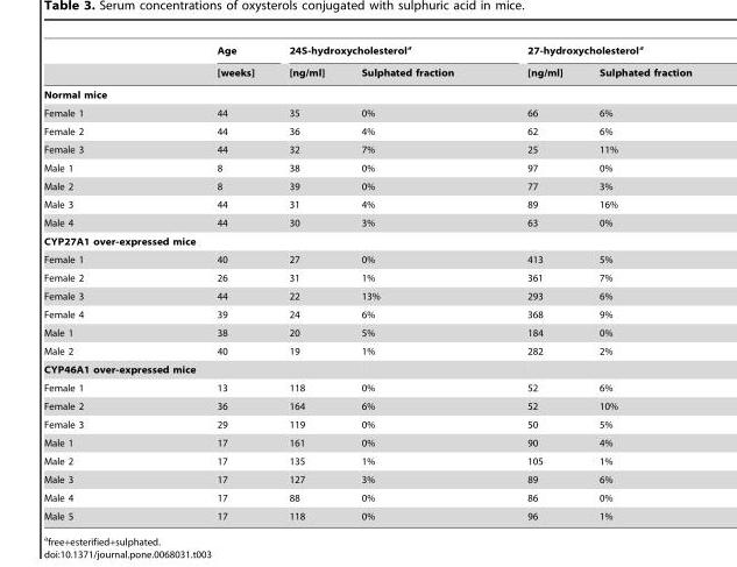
<table><thead><tr><td rowspan="2"></td><td rowspan="2">Age [weeks]</td><td colspan="2">24S-hydroxycholesterol<sup>a</sup></td><td colspan="2">27-hydroxycholesterol<sup>a</sup></td></tr><tr><td>[ng/ml]</td><td>Sulphated fraction</td><td>[ng/ml]</td><td>Sulphated fraction</td></tr></thead><tbody><tr><td colspan="6">Normal mice</td></tr><tr><td>Female 1</td><td>44</td><td>35</td><td>0%</td><td>66</td><td>6%</td></tr><tr><td>Female 2</td><td>44</td><td>36</td><td>4%</td><td>62</td><td>6%</td></tr><tr><td>Female 3</td><td>44</td><td>32</td><td>7%</td><td>25</td><td>11%</td></tr><tr><td>Male 1</td><td>8</td><td>38</td><td>0%</td><td>97</td><td>0%</td></tr><tr><td>Male 2</td><td>8</td><td>39</td><td>0%</td><td>77</td><td>3%</td></tr><tr><td>Male 3</td><td>44</td><td>31</td><td>4%</td><td>89</td><td>16%</td></tr><tr><td>Male 4</td><td>44</td><td>30</td><td>3%</td><td>63</td><td>0%</td></tr><tr><td colspan="6">CYP27A1 over-expressed mice</td></tr><tr><td>Female 1</td><td>40</td><td>27</td><td>0%</td><td>413</td><td>5%</td></tr><tr><td>Female 2</td><td>26</td><td>31</td><td>1%</td><td>361</td><td>7%</td></tr><tr><td>Female 3</td><td>44</td><td>22</td><td>13%</td><td>293</td><td>6%</td></tr><tr><td>Female 4</td><td>39</td><td>24</td><td>6%</td><td>368</td><td>9%</td></tr><tr><td>Male 1</td><td>38</td><td>20</td><td>5%</td><td>184</td><td>0%</td></tr><tr><td>Male 2</td><td>40</td><td>19</td><td>1%</td><td>282</td><td>2%</td></tr><tr><td colspan="6">CYP46A1 over-expressed mice</td></tr><tr><td>Female 1</td><td>13</td><td>118</td><td>0%</td><td>52</td><td>6%</td></tr><tr><td>Female 2</td><td>36</td><td>164</td><td>6%</td><td>52</td><td>10%</td></tr><tr><td>Female 3</td><td>29</td><td>119</td><td>0%</td><td>50</td><td>5%</td></tr><tr><td>Male 1</td><td>17</td><td>161</td><td>0%</td><td>90</td><td>4%</td></tr><tr><td>Male 2</td><td>17</td><td>135</td><td>1%</td><td>105</td><td>1%</td></tr><tr><td>Male 3</td><td>17</td><td>127</td><td>3%</td><td>89</td><td>6%</td></tr><tr><td>Male 4</td><td>17</td><td>88</td><td>0%</td><td>86</td><td>0%</td></tr><tr><td>Male 5</td><td>17</td><td>118</td><td>0%</td><td>96</td><td>1%</td></tr></tbody></table>